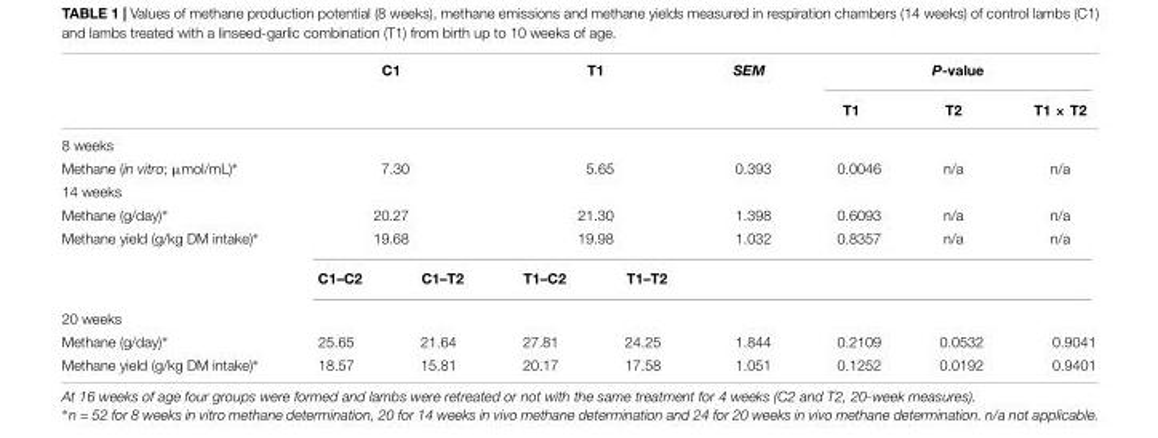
<table><thead><tr><td rowspan="2"></td><td colspan="2">C1</td><td colspan="2">T1</td><td rowspan="2">SEM</td><td colspan="3">P-value</td></tr><tr><td></td><td></td><td></td><td></td><td>T1</td><td>T2</td><td>T1 × T2</td></tr></thead><tbody><tr><td colspan="9">8 weeks</td></tr><tr><td>Methane (in vitro; µmol/mL)∗</td><td colspan="2">7.30</td><td colspan="2">5.65</td><td>0.393</td><td>0.0046</td><td>n/a</td><td>n/a</td></tr><tr><td colspan="9">14 weeks</td></tr><tr><td>Methane (g/day)∗</td><td colspan="2">20.27</td><td colspan="2">21.30</td><td>1.398</td><td>0.6093</td><td>n/a</td><td>n/a</td></tr><tr><td rowspan="2">Methane yield (g/kg DM intake)∗</td><td colspan="2">19.68</td><td colspan="2">19.98</td><td>1.032</td><td>0.8357</td><td>n/a</td><td>n/a</td></tr><tr><td>C1–C2</td><td>C1–T2</td><td>T1–C2</td><td>T1–T2</td><td></td><td></td><td></td><td></td></tr><tr><td colspan="9">20 weeks</td></tr><tr><td>Methane (g/day)∗</td><td>25.65</td><td>21.64</td><td>27.81</td><td>24.25</td><td>1.844</td><td>0.2109</td><td>0.0532</td><td>0.9041</td></tr><tr><td>Methane yield (g/kg DM intake)∗</td><td>18.57</td><td>15.81</td><td>20.17</td><td>17.58</td><td>1.051</td><td>0.1252</td><td>0.0192</td><td>0.9401</td></tr></tbody></table>